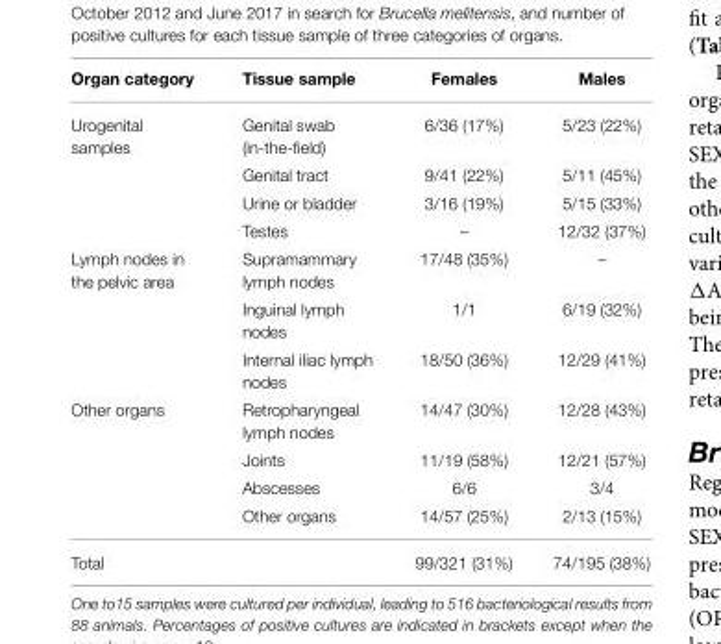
<table><thead><tr><td>Organ category</td><td>Tissue sample</td><td>Females</td><td>Males</td></tr></thead><tbody><tr><td rowspan="4">Urogenital samples</td><td>Genital swab (in-the-field)</td><td>6/36 (17%)</td><td>5/23 (22%)</td></tr><tr><td>Genital tract</td><td>9/41 (22%)</td><td>5/11 (45%)</td></tr><tr><td>Urine or bladder</td><td>3/16 (19%)</td><td>5/15 (33%)</td></tr><tr><td>Testes</td><td>–</td><td>12/32 (37%)</td></tr><tr><td rowspan="3">Lymph nodes in the pelvic area</td><td>Supramammary lymph nodes</td><td>17/48 (35%)</td><td>–</td></tr><tr><td>Inguinal lymph nodes</td><td>1/1</td><td>6/19 (32%)</td></tr><tr><td>Internal iliac lymph nodes</td><td>18/50 (36%)</td><td>12/29 (41%)</td></tr><tr><td rowspan="4">Other organs</td><td>Retropharyngeal lymph nodes</td><td>14/47 (30%)</td><td>12/28 (43%)</td></tr><tr><td>Joints</td><td>11/19 (58%)</td><td>12/21 (57%)</td></tr><tr><td>Abscesses</td><td>6/6</td><td>3/4</td></tr><tr><td>Other organs</td><td>14/57 (25%)</td><td>2/13 (15%)</td></tr><tr><td>Total</td><td></td><td>99/321 (31%)</td><td>74/195 (38%)</td></tr></tbody></table>